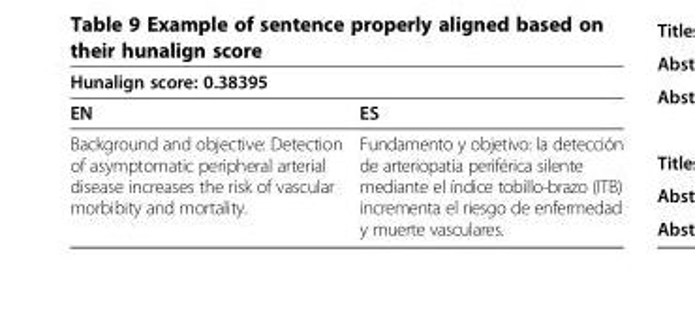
<table><thead><tr><td colspan="2">Hunalign score: 0.38395</td></tr><tr><td>EN</td><td>ES</td></tr></thead><tbody><tr><td>Background and objective: Detection of asymptomatic peripheral arterial disease increases the risk of vascular morbibity and mortality.</td><td>Fundamento y objetivo: la detección de arteriopatía periférica silente mediante el índice tobillo-brazo (ITB) incrementa el riesgo de enfermedad y muerte vasculares.</td></tr></tbody></table>